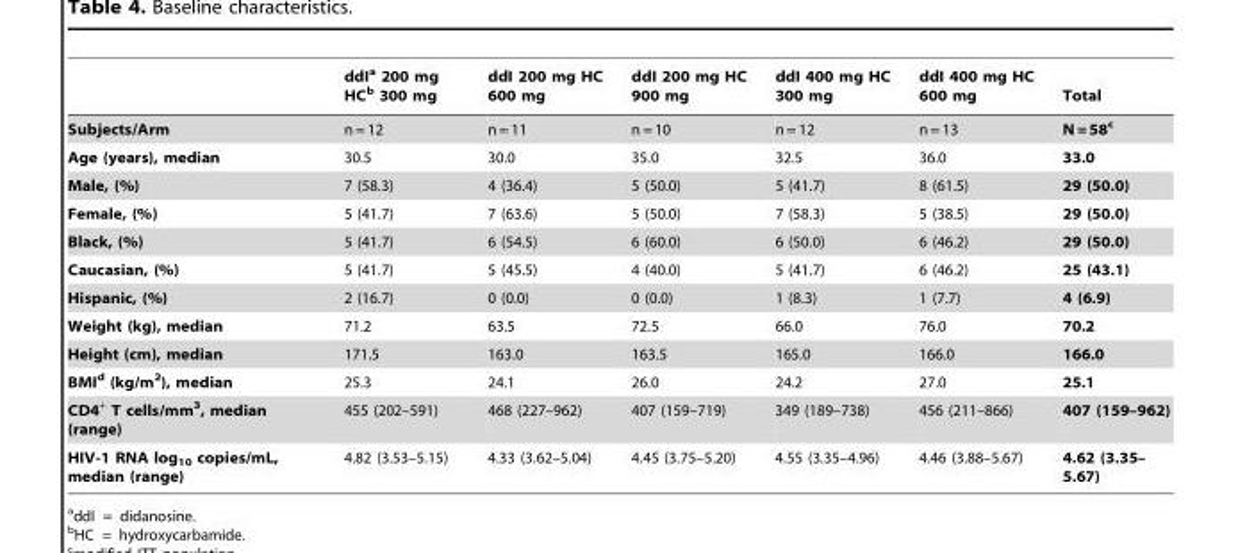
<table><thead><tr><td></td><td>ddI<sup>a</sup> 200 mg HC<sup>b</sup> 300 mg</td><td>ddI 200 mg HC 600 mg</td><td>ddI 200 mg HC 900 mg</td><td>ddI 400 mg HC 300 mg</td><td>ddI 400 mg HC 600 mg</td><td>Total</td></tr></thead><tbody><tr><td>Subjects/Arm</td><td>n = 12</td><td>n = 11</td><td>n = 10</td><td>n = 12</td><td>n = 13</td><td>N = 58c</td></tr><tr><td>Age (years), median</td><td>30.5</td><td>30.0</td><td>35.0</td><td>32.5</td><td>36.0</td><td>33.0</td></tr><tr><td>Male, (%)</td><td>7 (58.3)</td><td>4 (36.4)</td><td>5 (50.0)</td><td>5 (41.7)</td><td>8 (61.5)</td><td>29 (50.0)</td></tr><tr><td>Female, (%)</td><td>5 (41.7)</td><td>7 (63.6)</td><td>5 (50.0)</td><td>7 (58.3)</td><td>5 (38.5)</td><td>29 (50.0)</td></tr><tr><td>Black, (%)</td><td>5 (41.7)</td><td>6 (54.5)</td><td>6 (60.0)</td><td>6 (50.0)</td><td>6 (46.2)</td><td>29 (50.0)</td></tr><tr><td>Caucasian, (%)</td><td>5 (41.7)</td><td>5 (45.5)</td><td>4 (40.0)</td><td>5 (41.7)</td><td>6 (46.2)</td><td>25 (43.1)</td></tr><tr><td>Hispanic, (%)</td><td>2 (16.7)</td><td>0 (0.0)</td><td>0 (0.0)</td><td>1 (8.3)</td><td>1 (7.7)</td><td>4 (6.9)</td></tr><tr><td>Weight (kg), median</td><td>71.2</td><td>63.5</td><td>72.5</td><td>66.0</td><td>76.0</td><td>70.2</td></tr><tr><td>Height (cm), median</td><td>171.5</td><td>163.0</td><td>163.5</td><td>165.0</td><td>166.0</td><td>166.0</td></tr><tr><td>BMId (kg/m<sup>2</sup>), median</td><td>25.3</td><td>24.1</td><td>26.0</td><td>24.2</td><td>27.0</td><td>25.1</td></tr><tr><td>CD4<sup>+</sup> T cells/mm<sup>3</sup>, median (range)</td><td>455 (202–591)</td><td>468 (227–962)</td><td>407 (159–719)</td><td>349 (189–738)</td><td>456 (211–866)</td><td>407 (159–962)</td></tr><tr><td>HIV-1 RNA log<sub>10</sub> copies/mL, median (range)</td><td>4.82 (3.53–5.15)</td><td>4.33 (3.62–5.04)</td><td>4.45 (3.75–5.20)</td><td>4.55 (3.35–4.96)</td><td>4.46 (3.88–5.67)</td><td>4.62 (3.35– 5.67)</td></tr></tbody></table>